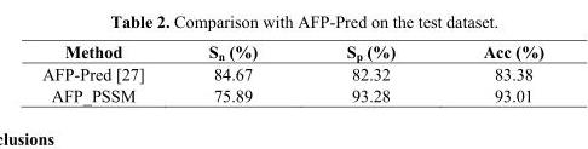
<table><thead><tr><td>Method</td><td>S<sub>n</sub> (%)</td><td>S<sub>p</sub> (%)</td><td>Acc (%)</td></tr></thead><tbody><tr><td>AFP-Pred [27]</td><td>84.67</td><td>82.32</td><td>83.38</td></tr><tr><td>AFP_PSSM</td><td>75.89</td><td>93.28</td><td>93.01</td></tr></tbody></table>